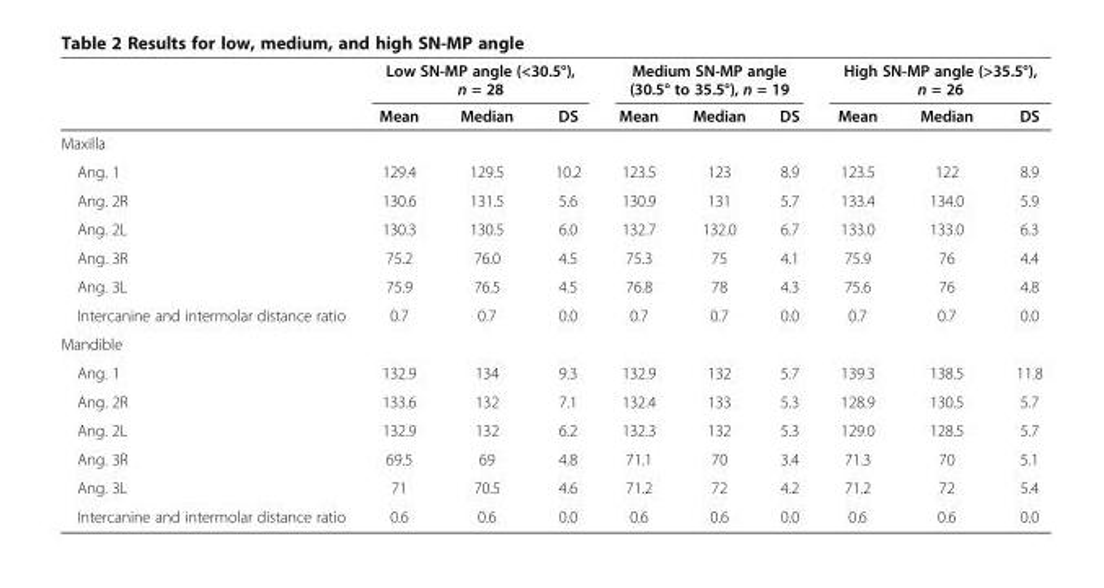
<table><thead><tr><td rowspan="2"></td><td colspan="3">Low SN-MP angle (&lt;30.5°), n = 28</td><td colspan="3">Medium SN-MP angle (30.5° to 35.5°), n = 19</td><td colspan="3">High SN-MP angle (&gt;35.5°), n = 26</td></tr><tr><td>Mean</td><td>Median</td><td>DS</td><td>Mean</td><td>Median</td><td>DS</td><td>Mean</td><td>Median</td><td>DS</td></tr></thead><tbody><tr><td colspan="10">Maxilla</td></tr><tr><td>Ang. 1</td><td>129.4</td><td>129.5</td><td>10.2</td><td>123.5</td><td>123</td><td>8.9</td><td>123.5</td><td>122</td><td>8.9</td></tr><tr><td>Ang. 2R</td><td>130.6</td><td>131.5</td><td>5.6</td><td>130.9</td><td>131</td><td>5.7</td><td>133.4</td><td>134.0</td><td>5.9</td></tr><tr><td>Ang. 2L</td><td>130.3</td><td>130.5</td><td>6.0</td><td>132.7</td><td>132.0</td><td>6.7</td><td>133.0</td><td>133.0</td><td>6.3</td></tr><tr><td>Ang. 3R</td><td>75.2</td><td>76.0</td><td>4.5</td><td>75.3</td><td>75</td><td>4.1</td><td>75.9</td><td>76</td><td>4.4</td></tr><tr><td>Ang. 3L</td><td>75.9</td><td>76.5</td><td>4.5</td><td>76.8</td><td>78</td><td>4.3</td><td>75.6</td><td>76</td><td>4.8</td></tr><tr><td>Intercanine and intermolar distance ratio</td><td>0.7</td><td>0.7</td><td>0.0</td><td>0.7</td><td>0.7</td><td>0.0</td><td>0.7</td><td>0.7</td><td>0.0</td></tr><tr><td colspan="10">Mandible</td></tr><tr><td>Ang. 1</td><td>132.9</td><td>134</td><td>9.3</td><td>132.9</td><td>132</td><td>5.7</td><td>139.3</td><td>138.5</td><td>11.8</td></tr><tr><td>Ang. 2R</td><td>133.6</td><td>132</td><td>7.1</td><td>132.4</td><td>133</td><td>5.3</td><td>128.9</td><td>130.5</td><td>5.7</td></tr><tr><td>Ang. 2L</td><td>132.9</td><td>132</td><td>6.2</td><td>132.3</td><td>132</td><td>5.3</td><td>129.0</td><td>128.5</td><td>5.7</td></tr><tr><td>Ang. 3R</td><td>69.5</td><td>69</td><td>4.8</td><td>71.1</td><td>70</td><td>3.4</td><td>71.3</td><td>70</td><td>5.1</td></tr><tr><td>Ang. 3L</td><td>71</td><td>70.5</td><td>4.6</td><td>71.2</td><td>72</td><td>4.2</td><td>71.2</td><td>72</td><td>5.4</td></tr><tr><td>Intercanine and intermolar distance ratio</td><td>0.6</td><td>0.6</td><td>0.0</td><td>0.6</td><td>0.6</td><td>0.0</td><td>0.6</td><td>0.6</td><td>0.0</td></tr></tbody></table>